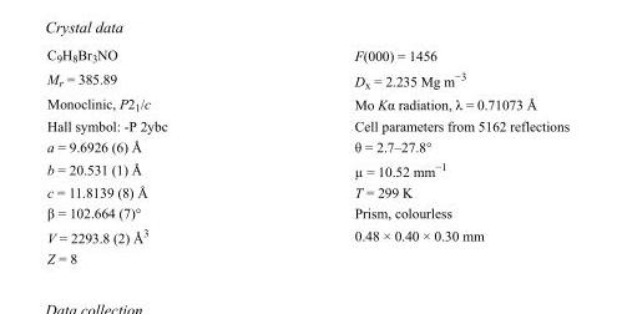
<table><tbody><tr><td>C<sub>9</sub>H<sub>8</sub>Br<sub>3</sub>NO</td><td>F(000) = 1456</td></tr><tr><td>M<sub>r</sub> = 385.89</td><td>D<sub>x</sub> = 2.235 Mg m<sup>−3</sup></td></tr><tr><td>Monoclinic, P2<sub>1</sub>/c</td><td>Mo Kα radiation, λ = 0.71073 Å</td></tr><tr><td>Hall symbol: -P 2ybc</td><td>Cell parameters from 5162 reflections</td></tr><tr><td>a = 9.6926 (6) Å</td><td>θ = 2.7–27.8°</td></tr><tr><td>b = 20.531 (1) Å</td><td>µ = 10.52 mm<sup>−1</sup></td></tr><tr><td>c = 11.8139 (8) Å</td><td>T = 299 K</td></tr><tr><td>β = 102.664 (7)°</td><td>Prism, colourless</td></tr><tr><td>V = 2293.8 (2) Å<sup>3</sup></td><td>0.48 × 0.40 × 0.30 mm</td></tr><tr><td>Z = 8</td><td></td></tr></tbody></table>